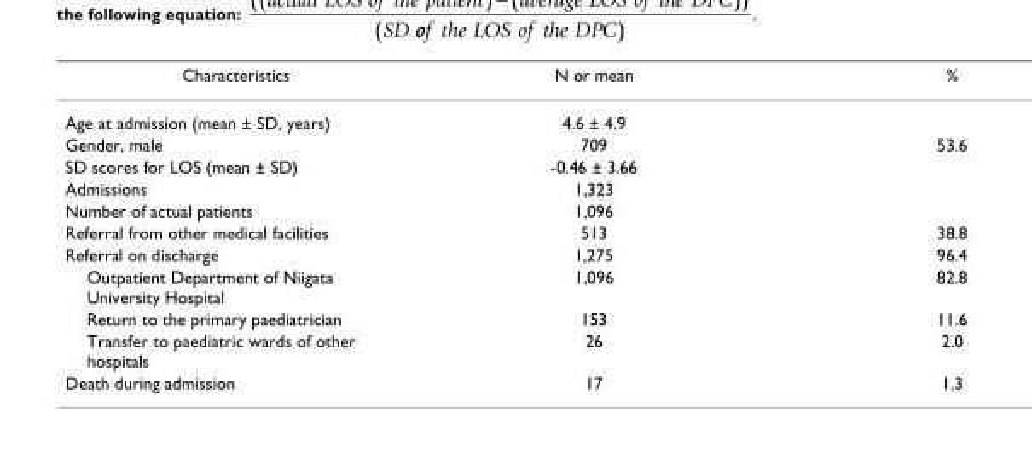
<table><thead><tr><td>Characteristics</td><td>N or mean</td><td>%</td></tr></thead><tbody><tr><td>Age at admission (mean ± SD, years)</td><td>4.6 ± 4.9</td><td></td></tr><tr><td>Gender, male</td><td>709</td><td>53.6</td></tr><tr><td>SD scores for LOS (mean ± SD)</td><td>-0.46 ± 3.66</td><td></td></tr><tr><td>Admissions</td><td>1,323</td><td></td></tr><tr><td>Number of actual patients</td><td>1,096</td><td></td></tr><tr><td>Referral from other medical facilities</td><td>513</td><td>38.8</td></tr><tr><td>Referral on discharge</td><td>1,275</td><td>96.4</td></tr><tr><td>Outpatient Department of Niigata University Hospital</td><td>1,096</td><td>82.8</td></tr><tr><td>Return to the primary paediatrician</td><td>153</td><td>11.6</td></tr><tr><td>Transfer to paediatric wards of other hospitals</td><td>26</td><td>2.0</td></tr><tr><td>Death during admission</td><td>17</td><td>1.3</td></tr></tbody></table>